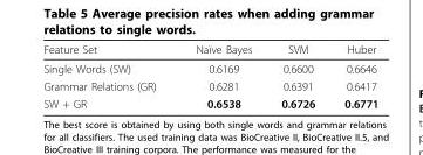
<table><thead><tr><td>Feature Set</td><td>Naïve Bayes</td><td>SVM</td><td>Huber</td></tr></thead><tbody><tr><td>Single Words (SW)</td><td>0.6169</td><td>0.6600</td><td>0.6646</td></tr><tr><td>Grammar Relations (GR)</td><td>0.6281</td><td>0.6391</td><td>0.6417</td></tr><tr><td>SW + GR</td><td>0.6538</td><td>0.6726</td><td>0.6771</td></tr></tbody></table>